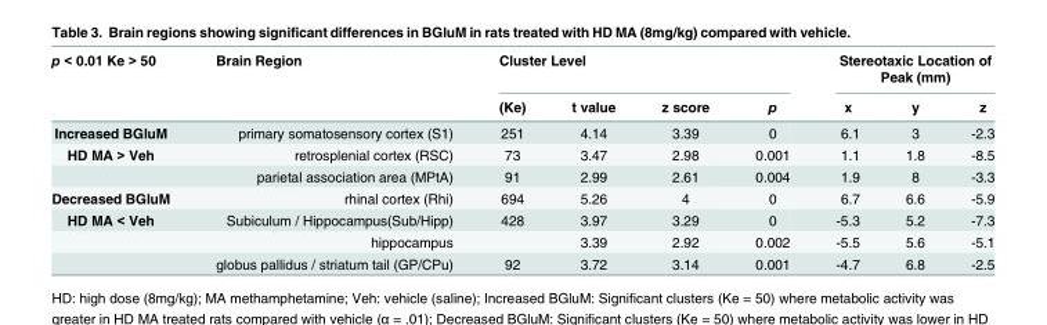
<table><thead><tr><td rowspan="2">p &lt; 0.01 Ke &gt; 50</td><td rowspan="2">Brain Region</td><td colspan="4">Cluster Level</td><td colspan="3">Stereotaxic Location of Peak (mm)</td></tr><tr><td>(Ke)</td><td>t value</td><td>z score</td><td>p</td><td>x</td><td>y</td><td>z</td></tr></thead><tbody><tr><td>Increased BGluM</td><td>primary somatosensory cortex (S1)</td><td>251</td><td>4.14</td><td>3.39</td><td>0</td><td>6.1</td><td>3</td><td>-2.3</td></tr><tr><td rowspan="2">HD MA &gt; Veh</td><td>retrosplenial cortex (RSC)</td><td>73</td><td>3.47</td><td>2.98</td><td>0.001</td><td>1.1</td><td>1.8</td><td>-8.5</td></tr><tr><td>parietal association area (MPtA)</td><td>91</td><td>2.99</td><td>2.61</td><td>0.004</td><td>1.9</td><td>8</td><td>-3.3</td></tr><tr><td>Decreased BGluM</td><td>rhinal cortex (Rhi)</td><td>694</td><td>5.26</td><td>4</td><td>0</td><td>6.7</td><td>6.6</td><td>-5.9</td></tr><tr><td rowspan="3">HD MA &lt; Veh</td><td>Subiculum / Hippocampus(Sub/Hipp)</td><td>428</td><td>3.97</td><td>3.29</td><td>0</td><td>-5.3</td><td>5.2</td><td>-7.3</td></tr><tr><td>hippocampus</td><td></td><td>3.39</td><td>2.92</td><td>0.002</td><td>-5.5</td><td>5.6</td><td>-5.1</td></tr><tr><td>globus pallidus / striatum tail (GP/CPu)</td><td>92</td><td>3.72</td><td>3.14</td><td>0.001</td><td>-4.7</td><td>6.8</td><td>-2.5</td></tr></tbody></table>